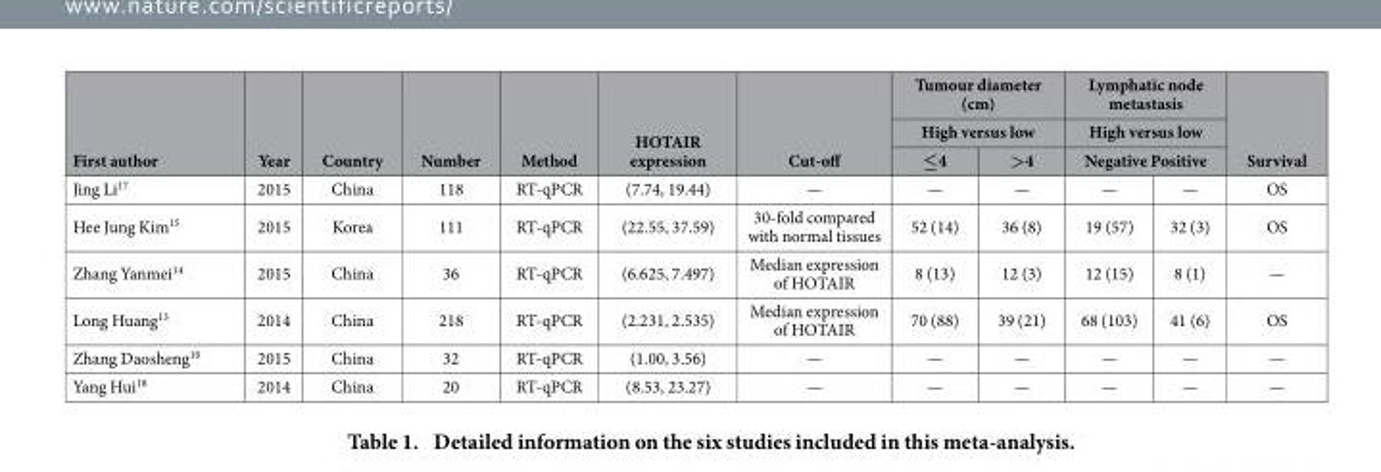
<table><thead><tr><td rowspan="4">First author Jing Li<sup>17</sup></td><td rowspan="4">Year 2015</td><td rowspan="4">Country China</td><td rowspan="4">Number 118</td><td rowspan="4">Method RT-qPCR</td><td rowspan="4">HOTAIR expression (7.74, 19.44)</td><td rowspan="4">Cut-off —</td><td rowspan="2" colspan="2">Tumour diameter (cm) High versus low</td><td rowspan="3" colspan="2">Lymphatic node metastasis High versus low Negative Positive</td><td rowspan="4">Survival OS</td></tr><tr></tr><tr><td rowspan="2">≤4 —</td><td rowspan="2">&gt;4 —</td></tr><tr><td>—</td><td>—</td></tr></thead><tbody><tr><td>Hee Jung Kim<sup>15</sup></td><td>2015</td><td>Korea</td><td>111</td><td>RT-qPCR</td><td>(22.55, 37.59)</td><td>30-fold compared with normal tissues</td><td>52 (14)</td><td>36 (8)</td><td>19 (57)</td><td>32 (3)</td><td>OS</td></tr><tr><td>Zhang Yanmei<sup>14</sup></td><td>2015</td><td>China</td><td>36</td><td>RT-qPCR</td><td>(6.625, 7.497)</td><td>Median expression of HOTAIR</td><td>8 (13)</td><td>12 (3)</td><td>12 (15)</td><td>8 (1)</td><td>—</td></tr><tr><td>Long Huang<sup>13</sup></td><td>2014</td><td>China</td><td>218</td><td>RT-qPCR</td><td>(2.231, 2.535)</td><td>Median expression of HOTAIR</td><td>70 (88)</td><td>39 (21)</td><td>68 (103)</td><td>41 (6)</td><td>OS</td></tr><tr><td>Zhang Daosheng<sup>10</sup></td><td>2015</td><td>China</td><td>32</td><td>RT-qPCR</td><td>(1.00, 3.56)</td><td>—</td><td>—</td><td>—</td><td>—</td><td>—</td><td>—</td></tr><tr><td>Yang Hui<sup>18</sup></td><td>2014</td><td>China</td><td>20</td><td>RT-qPCR</td><td>(8.53, 23.27)</td><td>—</td><td>—</td><td>—</td><td>—</td><td>—</td><td>—</td></tr></tbody></table>